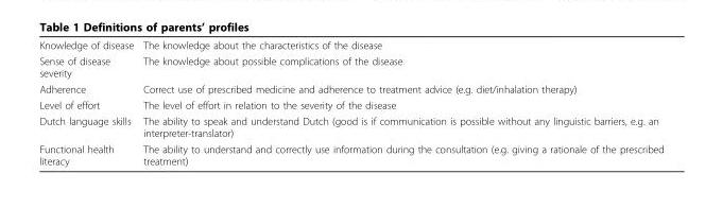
<table><tbody><tr><td>Knowledge of disease</td><td>The knowledge about the characteristics of the disease</td></tr><tr><td>Sense of disease severity</td><td>The knowledge about possible complications of the disease</td></tr><tr><td>Adherence</td><td>Correct use of prescribed medicine and adherence to treatment advice (e.g. diet/inhalation therapy)</td></tr><tr><td>Level of effort</td><td>The level of effort in relation to the severity of the disease</td></tr><tr><td>Dutch language skills</td><td>The ability to speak and understand Dutch (good is if communication is possible without any linguistic barriers, e.g. an interpreter-translator)</td></tr><tr><td>Functional health literacy</td><td>The ability to understand and correctly use information during the consultation (e.g. giving a rationale of the prescribed treatment)</td></tr></tbody></table>